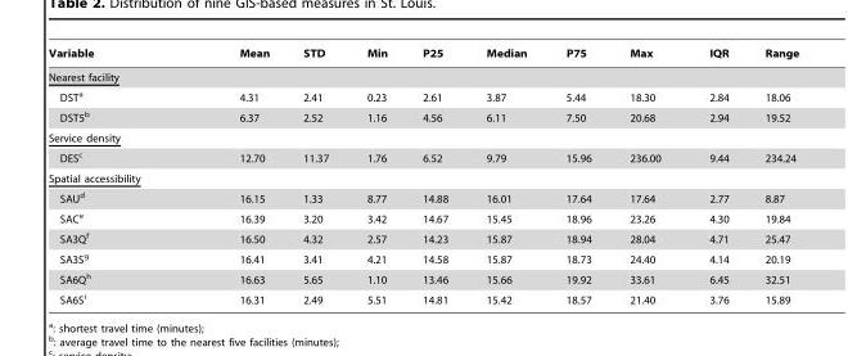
<table><thead><tr><td>Variable</td><td>Mean</td><td>STD</td><td>Min</td><td>P25</td><td>Median</td><td>P75</td><td>Max</td><td>IQR</td><td>Range</td></tr></thead><tbody><tr><td colspan="10">Nearest facility</td></tr><tr><td>DST<sup>a</sup></td><td>4.31</td><td>2.41</td><td>0.23</td><td>2.61</td><td>3.87</td><td>5.44</td><td>18.30</td><td>2.84</td><td>18.06</td></tr><tr><td>DST5<sup>b</sup></td><td>6.37</td><td>2.52</td><td>1.16</td><td>4.56</td><td>6.11</td><td>7.50</td><td>20.68</td><td>2.94</td><td>19.52</td></tr><tr><td colspan="10">Service density</td></tr><tr><td>DES<sup>c</sup></td><td>12.70</td><td>11.37</td><td>1.76</td><td>6.52</td><td>9.79</td><td>15.96</td><td>236.00</td><td>9.44</td><td>234.24</td></tr><tr><td colspan="10">Spatial accessibility</td></tr><tr><td>SAU<sup>d</sup></td><td>16.15</td><td>1.33</td><td>8.77</td><td>14.88</td><td>16.01</td><td>17.64</td><td>17.64</td><td>2.77</td><td>8.87</td></tr><tr><td>SAC<sup>e</sup></td><td>16.39</td><td>3.20</td><td>3.42</td><td>14.67</td><td>15.45</td><td>18.96</td><td>23.26</td><td>4.30</td><td>19.84</td></tr><tr><td>SA3Q<sup>f</sup></td><td>16.50</td><td>4.32</td><td>2.57</td><td>14.23</td><td>15.87</td><td>18.94</td><td>28.04</td><td>4.71</td><td>25.47</td></tr><tr><td>SA3S<sup>g</sup></td><td>16.41</td><td>3.41</td><td>4.21</td><td>14.58</td><td>15.87</td><td>18.73</td><td>24.40</td><td>4.14</td><td>20.19</td></tr><tr><td>SA6Q<sup>h</sup></td><td>16.63</td><td>5.65</td><td>1.10</td><td>13.46</td><td>15.66</td><td>19.92</td><td>33.61</td><td>6.45</td><td>32.51</td></tr><tr><td>SA6S<sup>i</sup></td><td>16.31</td><td>2.49</td><td>5.51</td><td>14.81</td><td>15.42</td><td>18.57</td><td>21.40</td><td>3.76</td><td>15.89</td></tr></tbody></table>